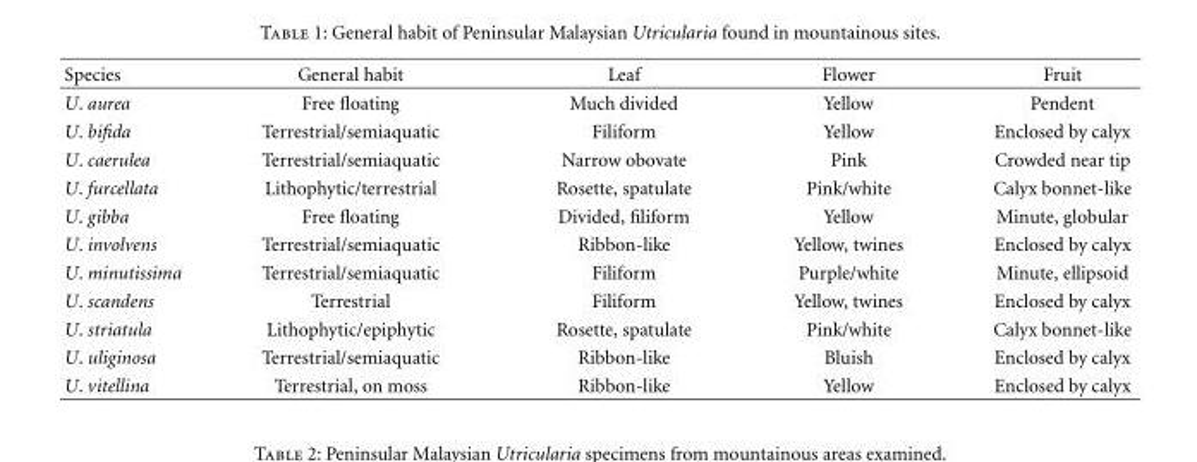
<table><thead><tr><td>Species</td><td>General habit</td><td>Leaf</td><td>Flower</td><td>Fruit</td></tr></thead><tbody><tr><td>U. aurea</td><td>Free floating</td><td>Much divided</td><td>Yellow</td><td>Pendent</td></tr><tr><td>U. bifida</td><td>Terrestrial/semiaquatic</td><td>Filiform</td><td>Yellow</td><td>Enclosed by calyx</td></tr><tr><td>U. caerulea</td><td>Terrestrial/semiaquatic</td><td>Narrow obovate</td><td>Pink</td><td>Crowded near tip</td></tr><tr><td>U. furcellata</td><td>Lithophytic/terrestrial</td><td>Rosette, spatulate</td><td>Pink/white</td><td>Calyx bonnet-like</td></tr><tr><td>U. gibba</td><td>Free floating</td><td>Divided, filiform</td><td>Yellow</td><td>Minute, globular</td></tr><tr><td>U. involvens</td><td>Terrestrial/semiaquatic</td><td>Ribbon-like</td><td>Yellow, twines</td><td>Enclosed by calyx</td></tr><tr><td>U. minutissima</td><td>Terrestrial/semiaquatic</td><td>Filiform</td><td>Purple/white</td><td>Minute, ellipsoid</td></tr><tr><td>U. scandens</td><td>Terrestrial</td><td>Filiform</td><td>Yellow, twines</td><td>Enclosed by calyx</td></tr><tr><td>U. striatula</td><td>Lithophytic/epiphytic</td><td>Rosette, spatulate</td><td>Pink/white</td><td>Calyx bonnet-like</td></tr><tr><td>U. uliginosa</td><td>Terrestrial/semiaquatic</td><td>Ribbon-like</td><td>Bluish</td><td>Enclosed by calyx</td></tr><tr><td>U. vitellina</td><td>Terrestrial, on moss</td><td>Ribbon-like</td><td>Yellow</td><td>Enclosed by calyx</td></tr></tbody></table>